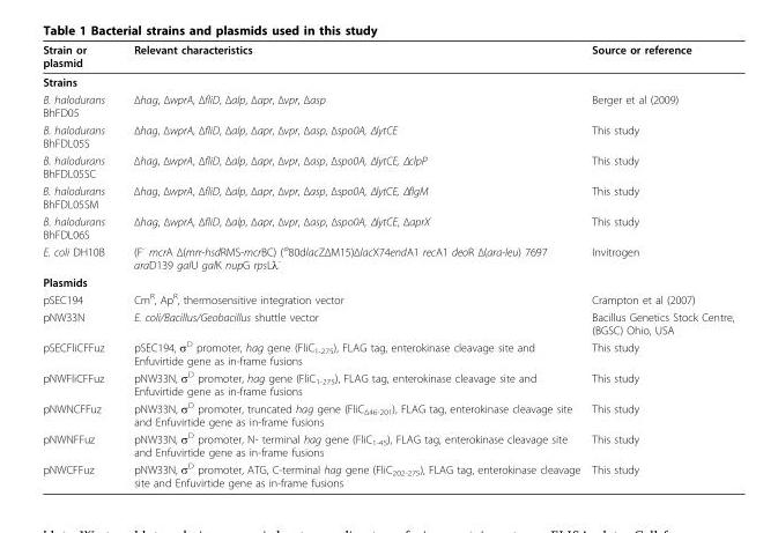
<table><thead><tr><td>Strain or plasmid</td><td>Relevant characteristics</td><td>Source or reference</td></tr></thead><tbody><tr><td colspan="3">Strains</td></tr><tr><td>B. halodurans BhFD05</td><td>Δhag, ΔwprA, ΔfliD, Δalp, Δapr, Δvpr, Δasp</td><td>Berger et al (2009)</td></tr><tr><td>B. halodurans BhFDL05S</td><td>Δhag, ΔwprA, ΔfliD, Δalp, Δapr, Δvpr, Δasp, Δspo0A, ΔlytCE</td><td>This study</td></tr><tr><td>B. halodurans BhFDL05SC</td><td>Δhag, ΔwprA, ΔfliD, Δalp, Δapr, Δvpr, Δasp, Δspo0A, ΔlytCE, ΔclpP</td><td>This study</td></tr><tr><td>B. halodurans BhFDL05SM</td><td>Δhag, ΔwprA, ΔfliD, Δalp, Δapr, Δvpr, Δasp, Δspo0A, ΔlytCE, ΔflgM</td><td>This study</td></tr><tr><td>B. halodurans BhFDL06S</td><td>Δhag, ΔwprA, ΔfliD, Δalp, Δapr, Δvpr, Δasp, Δspo0A, ΔlytCE, ΔaprX</td><td>This study</td></tr><tr><td>E. coli DH10B</td><td>(F<sup>-</sup> mcrA Δ(mrr-hsdRMS-mcrBC) (<sup>φ</sup>80dlacZΔM15)ΔlacX74endA1 recA1 deoR Δ(ara-leu) 7697 araD139 galU galK nupG rpsLλ<sup>-</sup></td><td>Invitrogen</td></tr><tr><td colspan="3">Plasmids</td></tr><tr><td>pSEC194</td><td>Cm<sup>R</sup>, Ap<sup>R</sup>, thermosensitive integration vector</td><td>Crampton et al (2007)</td></tr><tr><td>pNW33N</td><td>E. coli/Bacillus/Geobacillus shuttle vector</td><td>Bacillus Genetics Stock Centre, (BGSC) Ohio, USA</td></tr><tr><td>pSECFliCFFuz</td><td>pSEC194, σ<sup>D</sup> promoter, hag gene (FliC<sub>1-275</sub>), FLAG tag, enterokinase cleavage site and Enfuvirtide gene as in-frame fusions</td><td>This study</td></tr><tr><td>pNWFliCFFuz</td><td>pNW33N, σ<sup>D</sup> promoter, hag gene (FliC<sub>1-275</sub>), FLAG tag, enterokinase cleavage site and Enfuvirtide gene as in-frame fusions</td><td>This study</td></tr><tr><td>pNWNCFFuz</td><td>pNW33N, σ<sup>D</sup> promoter, truncated hag gene (FliC<sub>Δ46-201</sub>), FLAG tag, enterokinase cleavage site and Enfuvirtide gene as in-frame fusions</td><td>This study</td></tr><tr><td>pNWNFFuz</td><td>pNW33N, σ<sup>D</sup> promoter, N- terminal hag gene (FliC<sub>1-45</sub>), FLAG tag, enterokinase cleavage site and Enfuvirtide gene as in-frame fusions</td><td>This study</td></tr><tr><td>pNWCFFuz</td><td>pNW33N, σ<sup>D</sup> promoter, ATG, C-terminal hag gene (FliC<sub>202-275</sub>), FLAG tag, enterokinase cleavage site and Enfuvirtide gene as in-frame fusions</td><td>This study</td></tr></tbody></table>